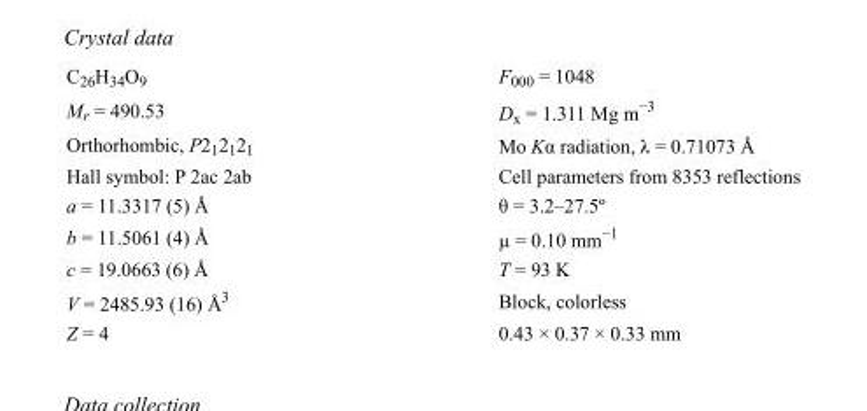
<table><tbody><tr><td>C<sub>26</sub>H<sub>34</sub>O<sub>9</sub></td><td>F000 = 1048</td></tr><tr><td>M<sub>r</sub> = 490.53</td><td>D<sub>x</sub> = 1.311 Mg m<sup>−3</sup></td></tr><tr><td>Orthorhombic, P2<sub>1</sub>2<sub>1</sub>2<sub>1</sub></td><td>Mo Kα radiation, λ = 0.71073 Å</td></tr><tr><td>Hall symbol: P 2ac 2ab</td><td>Cell parameters from 8353 reflections</td></tr><tr><td>a = 11.3317 (5) Å</td><td>θ = 3.2–27.5º</td></tr><tr><td>b = 11.5061 (4) Å</td><td>µ = 0.10 mm<sup>−1</sup></td></tr><tr><td>c = 19.0663 (6) Å</td><td>T = 93 K</td></tr><tr><td>V = 2485.93 (16) Å<sup>3</sup></td><td>Block, colorless</td></tr><tr><td>Z = 4</td><td>0.43 × 0.37 × 0.33 mm</td></tr></tbody></table>